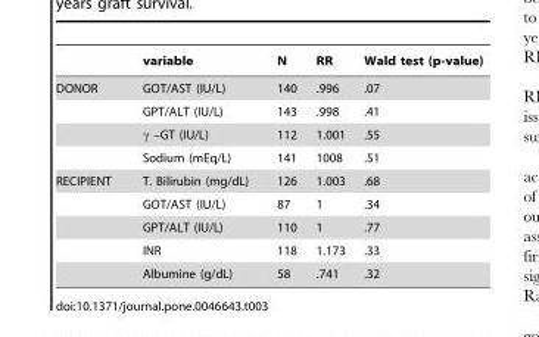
<table><thead><tr><td></td><td>variable</td><td>N</td><td>RR</td><td>Wald test (p-value)</td></tr></thead><tbody><tr><td rowspan="4">DONOR</td><td>GOT/AST (IU/L)</td><td>140</td><td>.996</td><td>.07</td></tr><tr><td>GPT/ALT (IU/L)</td><td>143</td><td>.998</td><td>.41</td></tr><tr><td>γ –GT (IU/L)</td><td>112</td><td>1.001</td><td>.55</td></tr><tr><td>Sodium (mEq/L)</td><td>141</td><td>1008</td><td>.51</td></tr><tr><td rowspan="5">RECIPIENT</td><td>T. Bilirubin (mg/dL)</td><td>126</td><td>1.003</td><td>.68</td></tr><tr><td>GOT/AST (IU/L)</td><td>87</td><td>1</td><td>.34</td></tr><tr><td>GPT/ALT (IU/L)</td><td>110</td><td>1</td><td>.77</td></tr><tr><td>INR</td><td>118</td><td>1.173</td><td>.33</td></tr><tr><td>Albumine (g/dL)</td><td>58</td><td>.741</td><td>.32</td></tr></tbody></table>